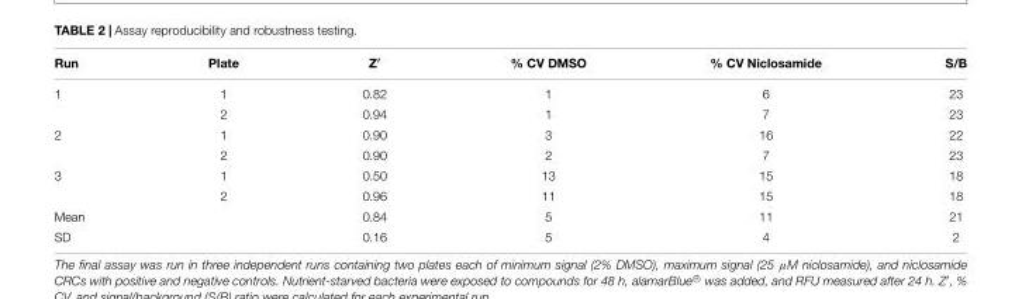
<table><thead><tr><td>Run</td><td>Plate</td><td>Z′</td><td>% CV DMSO</td><td>% CV Niclosamide</td><td>S/B</td></tr></thead><tbody><tr><td rowspan="2">1</td><td>1</td><td>0.82</td><td>1</td><td>6</td><td>23</td></tr><tr><td>2</td><td>0.94</td><td>1</td><td>7</td><td>23</td></tr><tr><td rowspan="2">2</td><td>1</td><td>0.90</td><td>3</td><td>16</td><td>22</td></tr><tr><td>2</td><td>0.90</td><td>2</td><td>7</td><td>23</td></tr><tr><td rowspan="2">3</td><td>1</td><td>0.50</td><td>13</td><td>15</td><td>18</td></tr><tr><td>2</td><td>0.96</td><td>11</td><td>15</td><td>18</td></tr><tr><td>Mean</td><td></td><td>0.84</td><td>5</td><td>11</td><td>21</td></tr><tr><td>SD</td><td></td><td>0.16</td><td>5</td><td>4</td><td>2</td></tr></tbody></table>